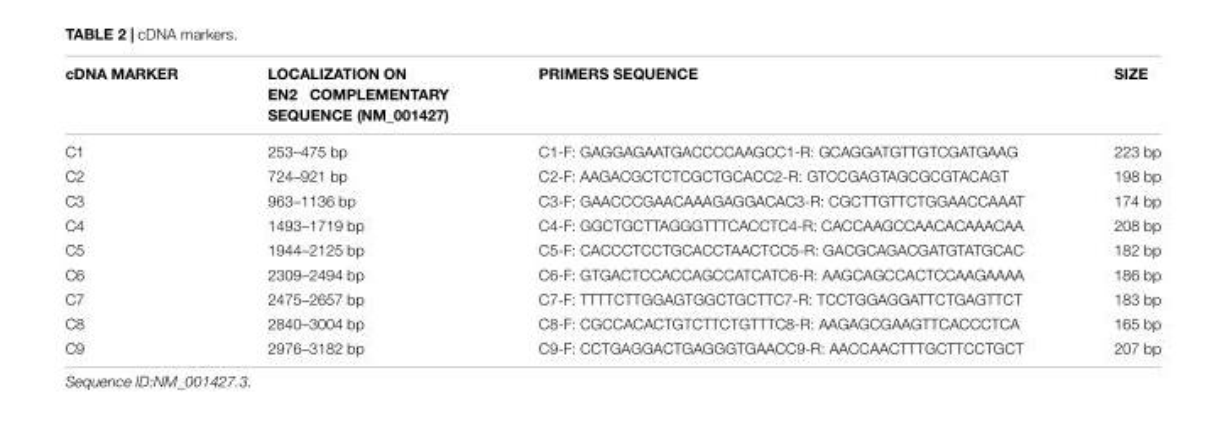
<table><thead><tr><td>cDNA MARKER</td><td>LOCALIZATION ON EN2 COMPLEMENTARY SEQUENCE (NM_001427)</td><td>PRIMERS SEQUENCE</td><td>SIZE</td></tr></thead><tbody><tr><td>C1</td><td>253–475 bp</td><td>C1-F: GAGGAGAATGACCCCAAGCC1-R: GCAGGATGTTGTCGATGAAG</td><td>223 bp</td></tr><tr><td>C2</td><td>724–921 bp</td><td>C2-F: AAGACGCTCTCGCTGCACC2-R: GTCCGAGTAGCGCGTACAGT</td><td>198 bp</td></tr><tr><td>C3</td><td>963–1136 bp</td><td>C3-F: GAACCCGAACAAAGAGGACAC3-R: CGCTTGTTCTGGAACCAAAT</td><td>174 bp</td></tr><tr><td>C4</td><td>1493–1719 bp</td><td>C4-F: GGCTGCTTAGGGTTTCACCTC4-R: CACCAAGCCAACACAAACAA</td><td>208 bp</td></tr><tr><td>C5</td><td>1944–2125 bp</td><td>C5-F: CACCCTCCTGCACCTAACTCC5-R: GACGCAGACGATGTATGCAC</td><td>182 bp</td></tr><tr><td>C6</td><td>2309–2494 bp</td><td>C6-F: GTGACTCCACCAGCCATCATC6-R: AAGCAGCCACTCCAAGAAAA</td><td>186 bp</td></tr><tr><td>C7</td><td>2475–2657 bp</td><td>C7-F: TTTTCTTGGAGTGGCTGCTTC7-R: TCCTGGAGGATTCTGAGTTCT</td><td>183 bp</td></tr><tr><td>C8</td><td>2840–3004 bp</td><td>C8-F: CGCCACACTGTCTTCTGTTTC8-R: AAGAGCGAAGTTCACCCTCA</td><td>165 bp</td></tr><tr><td>C9</td><td>2976–3182 bp</td><td>C9-F: CCTGAGGACTGAGGGTGAACC9-R: AACCAACTTTGCTTCCTGCT</td><td>207 bp</td></tr></tbody></table>